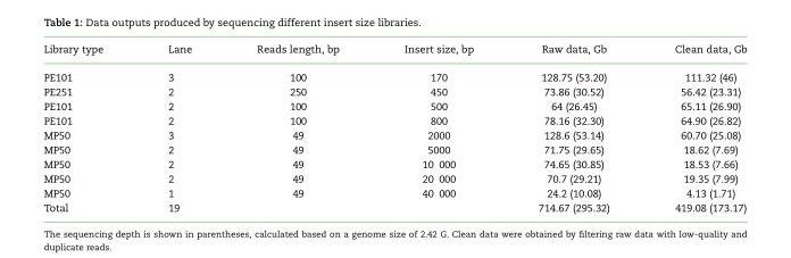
<table><thead><tr><td>Library type</td><td>Lane</td><td>Reads length, bp</td><td>Insert size, bp</td><td>Raw data, Gb</td><td>Clean data, Gb</td></tr></thead><tbody><tr><td>PE101</td><td>3</td><td>100</td><td>170</td><td>128.75 (53.20)</td><td>111.32 (46)</td></tr><tr><td>PE251</td><td>2</td><td>250</td><td>450</td><td>73.86 (30.52)</td><td>56.42 (23.31)</td></tr><tr><td>PE101</td><td>2</td><td>100</td><td>500</td><td>64 (26.45)</td><td>65.11 (26.90)</td></tr><tr><td>PE101</td><td>2</td><td>100</td><td>800</td><td>78.16 (32.30)</td><td>64.90 (26.82)</td></tr><tr><td>MP50</td><td>3</td><td>49</td><td>2000</td><td>128.6 (53.14)</td><td>60.70 (25.08)</td></tr><tr><td>MP50</td><td>2</td><td>49</td><td>5000</td><td>71.75 (29.65)</td><td>18.62 (7.69)</td></tr><tr><td>MP50</td><td>2</td><td>49</td><td>10 000</td><td>74.65 (30.85)</td><td>18.53 (7.66)</td></tr><tr><td>MP50</td><td>2</td><td>49</td><td>20 000</td><td>70.7 (29.21)</td><td>19.35 (7.99)</td></tr><tr><td>MP50</td><td>1</td><td>49</td><td>40 000</td><td>24.2 (10.08)</td><td>4.13 (1.71)</td></tr><tr><td>Total</td><td>19</td><td></td><td></td><td>714.67 (295.32)</td><td>419.08 (173.17)</td></tr></tbody></table>